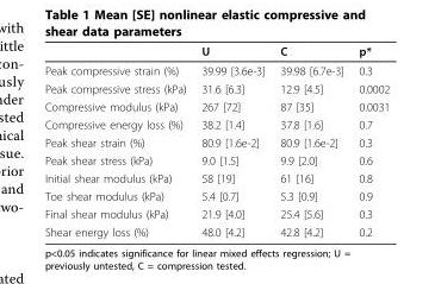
<table><thead><tr><td></td><td>U</td><td>C</td><td>p*</td></tr></thead><tbody><tr><td>Peak compressive strain (%)</td><td>39.99 [3.6e-3]</td><td>39.98 [6.7e-3]</td><td>0.3</td></tr><tr><td>Peak compressive stress (kPa)</td><td>31.6 [6.3]</td><td>12.9 [4.5]</td><td>0.0002</td></tr><tr><td>Compressive modulus (kPa)</td><td>267 [72]</td><td>87 [35]</td><td>0.0031</td></tr><tr><td>Compressive energy loss (%)</td><td>38.2 [1.4]</td><td>37.8 [1.6]</td><td>0.7</td></tr><tr><td>Peak shear strain (%)</td><td>80.9 [1.6e-2]</td><td>80.9 [1.6e-2]</td><td>0.3</td></tr><tr><td>Peak shear stress (kPa)</td><td>9.0 [1.5]</td><td>9.9 [2.0]</td><td>0.6</td></tr><tr><td>Initial shear modulus (kPa)</td><td>58 [19]</td><td>61 [16]</td><td>0.8</td></tr><tr><td>Toe shear modulus (kPa)</td><td>5.4 [0.7]</td><td>5.3 [0.9]</td><td>0.9</td></tr><tr><td>Final shear modulus (kPa)</td><td>21.9 [4.0]</td><td>25.4 [5.6]</td><td>0.3</td></tr><tr><td>Shear energy loss (%)</td><td>48.0 [4.2]</td><td>42.8 [4.2]</td><td>0.2</td></tr></tbody></table>